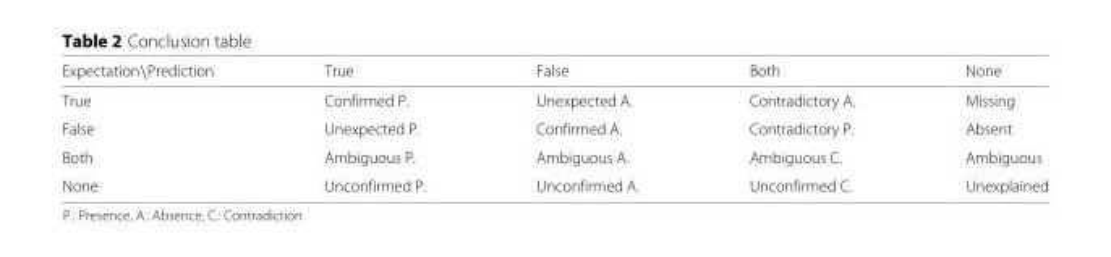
<table><thead><tr><td>Expectation\Prediction</td><td>True</td><td>False</td><td>Both</td><td>None</td></tr></thead><tbody><tr><td>True</td><td>Confirmed P.</td><td>Unexpected A.</td><td>Contradictory A.</td><td>Missing</td></tr><tr><td>False</td><td>Unexpected P.</td><td>Confirmed A.</td><td>Contradictory P.</td><td>Absent</td></tr><tr><td>Both</td><td>Ambiguous P.</td><td>Ambiguous A.</td><td>Ambiguous C.</td><td>Ambiguous</td></tr><tr><td>None</td><td>Unconfirmed P.</td><td>Unconfirmed A.</td><td>Unconfirmed C.</td><td>Unexplained</td></tr></tbody></table>